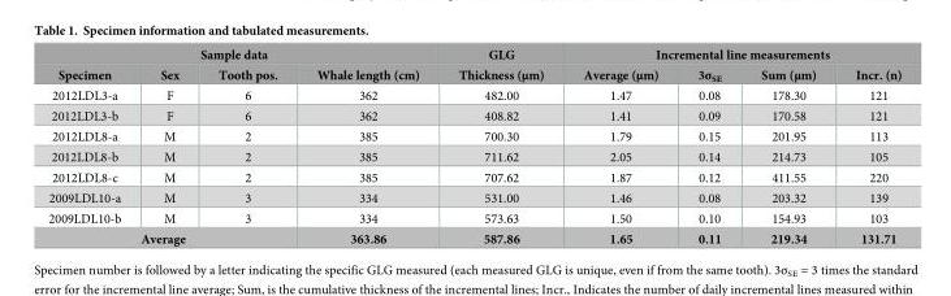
<table><thead><tr><td colspan="4">Sample data</td><td rowspan="2">GLG Thickness (μm)</td><td colspan="4">Incremental line measurements</td></tr><tr><td>Specimen</td><td>Sex</td><td>Tooth pos.</td><td>Whale length (cm)</td><td>Average (μm)</td><td>3σ<sub>SE</sub></td><td>Sum (μm)</td><td>Incr. (n)</td></tr></thead><tbody><tr><td>2012LDL3-a</td><td>F</td><td>6</td><td>362</td><td>482.00</td><td>1.47</td><td>0.08</td><td>178.30</td><td>121</td></tr><tr><td>2012LDL3-b</td><td>F</td><td>6</td><td>362</td><td>408.82</td><td>1.41</td><td>0.09</td><td>170.58</td><td>121</td></tr><tr><td>2012LDL8-a</td><td>M</td><td>2</td><td>385</td><td>700.30</td><td>1.79</td><td>0.15</td><td>201.95</td><td>113</td></tr><tr><td>2012LDL8-b</td><td>M</td><td>2</td><td>385</td><td>711.62</td><td>2.05</td><td>0.14</td><td>214.73</td><td>105</td></tr><tr><td>2012LDL8-c</td><td>M</td><td>2</td><td>385</td><td>707.62</td><td>1.87</td><td>0.12</td><td>411.55</td><td>220</td></tr><tr><td>2009LDL10-a</td><td>M</td><td>3</td><td>334</td><td>531.00</td><td>1.46</td><td>0.08</td><td>203.32</td><td>139</td></tr><tr><td>2009LDL10-b</td><td>M</td><td>3</td><td>334</td><td>573.63</td><td>1.50</td><td>0.10</td><td>154.93</td><td>103</td></tr><tr><td colspan="3">Average</td><td>363.86</td><td>587.86</td><td>1.65</td><td>0.11</td><td>219.34</td><td>131.71</td></tr></tbody></table>